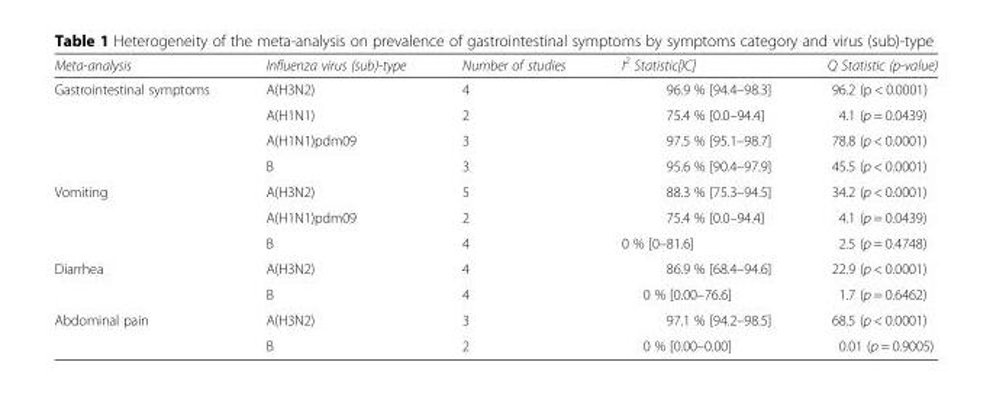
<table><thead><tr><td>Meta-analysis</td><td>Influenza virus (sub)-type</td><td>Number of studies</td><td>I<sup>2</sup> Statistic[IC]</td><td>Q Statistic (p-value)</td></tr></thead><tbody><tr><td rowspan="4">Gastrointestinal symptoms</td><td>A(H3N2)</td><td>4</td><td>96.9 % [94.4–98.3]</td><td>96.2 (p &lt; 0.0001)</td></tr><tr><td>A(H1N1)</td><td>2</td><td>75.4 % [0.0–94.4]</td><td>4.1 (p = 0.0439)</td></tr><tr><td>A(H1N1)pdm09</td><td>3</td><td>97.5 % [95.1–98.7]</td><td>78.8 (p &lt; 0.0001)</td></tr><tr><td>B</td><td>3</td><td>95.6 % [90.4–97.9]</td><td>45.5 (p &lt; 0.0001)</td></tr><tr><td rowspan="3">Vomiting</td><td>A(H3N2)</td><td>5</td><td>88.3 % [75.3–94.5]</td><td>34.2 (p &lt; 0.0001)</td></tr><tr><td>A(H1N1)pdm09</td><td>2</td><td>75.4 % [0.0–94.4]</td><td>4.1 (p = 0.0439)</td></tr><tr><td>B</td><td>4</td><td>0 % [0–81.6]</td><td>2.5 (p = 0.4748)</td></tr><tr><td rowspan="2">Diarrhea</td><td>A(H3N2)</td><td>4</td><td>86.9 % [68.4–94.6]</td><td>22.9 (p &lt; 0.0001)</td></tr><tr><td>B</td><td>4</td><td>0 % [0.00–76.6]</td><td>1.7 (p = 0.6462)</td></tr><tr><td rowspan="2">Abdominal pain</td><td>A(H3N2)</td><td>3</td><td>97.1 % [94.2–98.5]</td><td>68.5 (p &lt; 0.0001)</td></tr><tr><td>B</td><td>2</td><td>0 % [0.00–0.00]</td><td>0.01 (p = 0.9005)</td></tr></tbody></table>